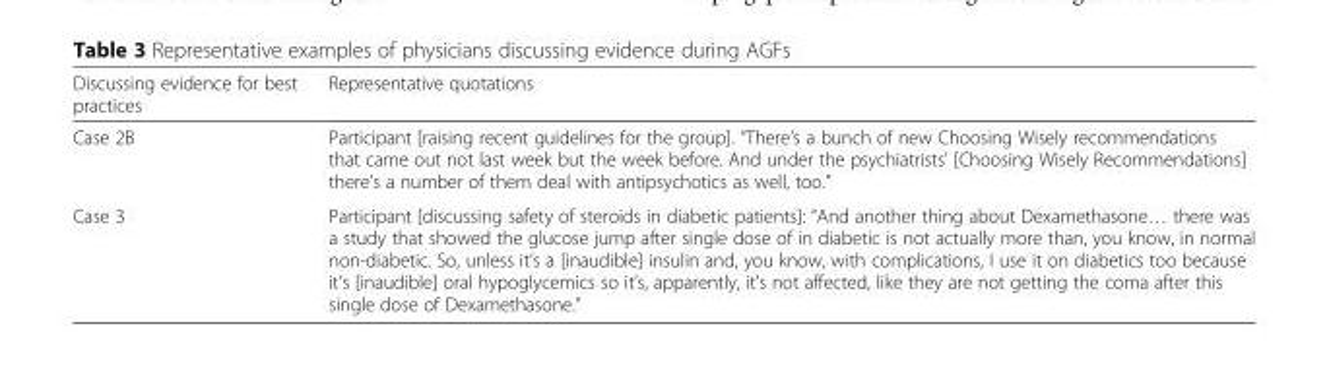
<table><thead><tr><td>Discussing evidence for best practices</td><td>Representative quotations</td></tr></thead><tbody><tr><td>Case 2B</td><td>Participant [raising recent guidelines for the group]. “There’s a bunch of new Choosing Wisely recommendations that came out not last week but the week before. And under the psychiatrists’ [Choosing Wisely Recommendations] there’s a number of them deal with antipsychotics as well, too.”</td></tr><tr><td>Case 3</td><td>Participant [discussing safety of steroids in diabetic patients]: “And another thing about Dexamethasone… there was a study that showed the glucose jump after single dose of in diabetic is not actually more than, you know, in normal non-diabetic. So, unless it’s a [inaudible] insulin and, you know, with complications, I use it on diabetics too because it’s [inaudible] oral hypoglycemics so it’s, apparently, it’s not affected, like they are not getting the coma after this single dose of Dexamethasone.”</td></tr></tbody></table>